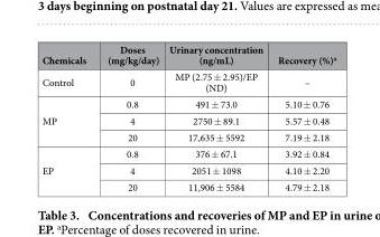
<table><thead><tr><td>Chemicals</td><td>Doses (mg/kg/day)</td><td>Urinary concentration (ng/mL)</td><td>Recovery (%)<sup>a</sup></td></tr></thead><tbody><tr><td>Control</td><td>0</td><td>MP (2.75 ± 2.95)/EP (ND)</td><td>–</td></tr><tr><td rowspan="3">MP</td><td>0.8</td><td>491 ± 73.0</td><td>5.10 ± 0.76</td></tr><tr><td>4</td><td>2750 ± 89.1</td><td>5.57 ± 0.48</td></tr><tr><td>20</td><td>17,635 ± 5592</td><td>7.19 ± 2.18</td></tr><tr><td rowspan="3">EP</td><td>0.8</td><td>376 ± 67.1</td><td>3.92 ± 0.84</td></tr><tr><td>4</td><td>2051 ± 1098</td><td>4.10 ± 2.20</td></tr><tr><td>20</td><td>11,906 ± 5584</td><td>4.79 ± 2.18</td></tr></tbody></table>